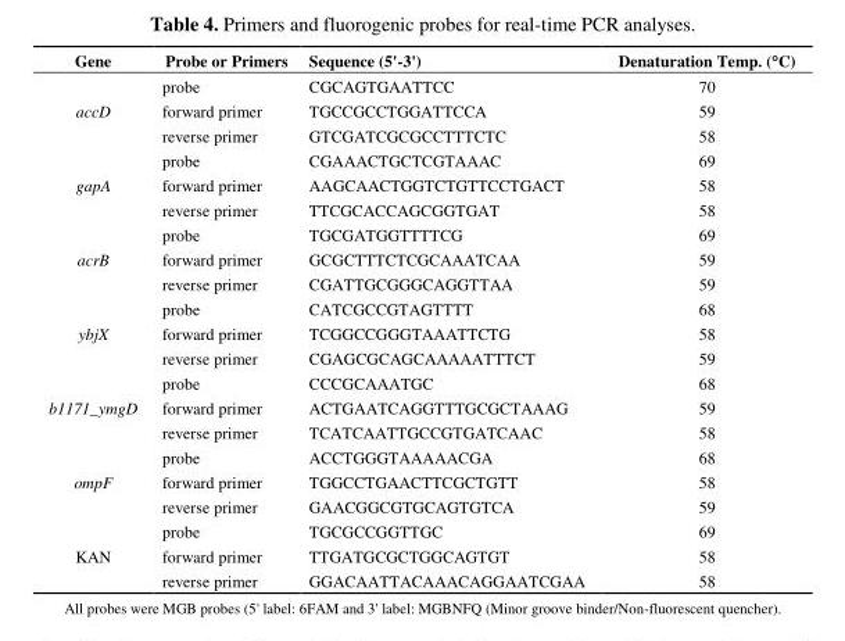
<table><thead><tr><td>Gene</td><td>Probe or Primers</td><td>Sequence (5&#x27;-3&#x27;)</td><td>Denaturation Temp. (°C)</td></tr></thead><tbody><tr><td rowspan="3">accD</td><td>probe</td><td>CGCAGTGAATTCC</td><td>70</td></tr><tr><td>forward primer</td><td>TGCCGCCTGGATTCCA</td><td>59</td></tr><tr><td>reverse primer</td><td>GTCGATCGCGCCTTTCTC</td><td>58</td></tr><tr><td rowspan="3">gapA</td><td>probe</td><td>CGAAACTGCTCGTAAAC</td><td>69</td></tr><tr><td>forward primer</td><td>AAGCAACTGGTCTGTTCCTGACT</td><td>58</td></tr><tr><td>reverse primer</td><td>TTCGCACCAGCGGTGAT</td><td>58</td></tr><tr><td rowspan="3">acrB</td><td>probe</td><td>TGCGATGGTTTTCG</td><td>69</td></tr><tr><td>forward primer</td><td>GCGCTTTCTCGCAAATCAA</td><td>59</td></tr><tr><td>reverse primer</td><td>CGATTGCGGGCAGGTTAA</td><td>59</td></tr><tr><td rowspan="3">ybjX</td><td>probe</td><td>CATCGCCGTAGTTTT</td><td>68</td></tr><tr><td>forward primer</td><td>TCGGCCGGGTAAATTCTG</td><td>58</td></tr><tr><td>reverse primer</td><td>CGAGCGCAGCAAAAATTTCT</td><td>59</td></tr><tr><td rowspan="3">b1171_ymgD</td><td>probe</td><td>CCCGCAAATGC</td><td>68</td></tr><tr><td>forward primer</td><td>ACTGAATCAGGTTTGCGCTAAAG</td><td>59</td></tr><tr><td>reverse primer</td><td>TCATCAATTGCCGTGATCAAC</td><td>58</td></tr><tr><td rowspan="3">ompF</td><td>probe</td><td>ACCTGGGTAAAAACGA</td><td>68</td></tr><tr><td>forward primer</td><td>TGGCCTGAACTTCGCTGTT</td><td>58</td></tr><tr><td>reverse primer</td><td>GAACGGCGTGCAGTGTCA</td><td>59</td></tr><tr><td rowspan="3">KAN</td><td>probe</td><td>TGCGCCGGTTGC</td><td>69</td></tr><tr><td>forward primer</td><td>TTGATGCGCTGGCAGTGT</td><td>58</td></tr><tr><td>reverse primer</td><td>GGACAATTACAAACAGGAATCGAA</td><td>58</td></tr></tbody></table>